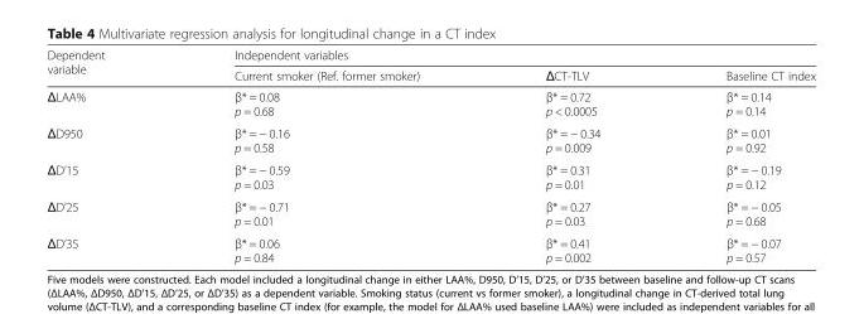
<table><thead><tr><td rowspan="2">Dependent variable</td><td colspan="3">Independent variables</td></tr><tr><td>Current smoker (Ref. former smoker)</td><td>ΔCT-TLV</td><td>Baseline CT index</td></tr></thead><tbody><tr><td>ΔLAA%</td><td>β* = 0.08 p = 0.68</td><td>β* = 0.72 p &lt; 0.0005</td><td>β* = 0.14 p = 0.14</td></tr><tr><td>ΔD950</td><td>β* = − 0.16 p = 0.58</td><td>β* = − 0.34 p = 0.009</td><td>β* = 0.01 p = 0.92</td></tr><tr><td>ΔD’15</td><td>β* = − 0.59 p = 0.03</td><td>β* = 0.31 p = 0.01</td><td>β* = − 0.19 p = 0.12</td></tr><tr><td>ΔD’25</td><td>β* = − 0.71 p = 0.01</td><td>β* = 0.27 p = 0.03</td><td>β* = − 0.05 p = 0.68</td></tr><tr><td>ΔD’35</td><td>β* = 0.06 p = 0.84</td><td>β* = 0.41 p = 0.002</td><td>β* = − 0.07 p = 0.57</td></tr></tbody></table>